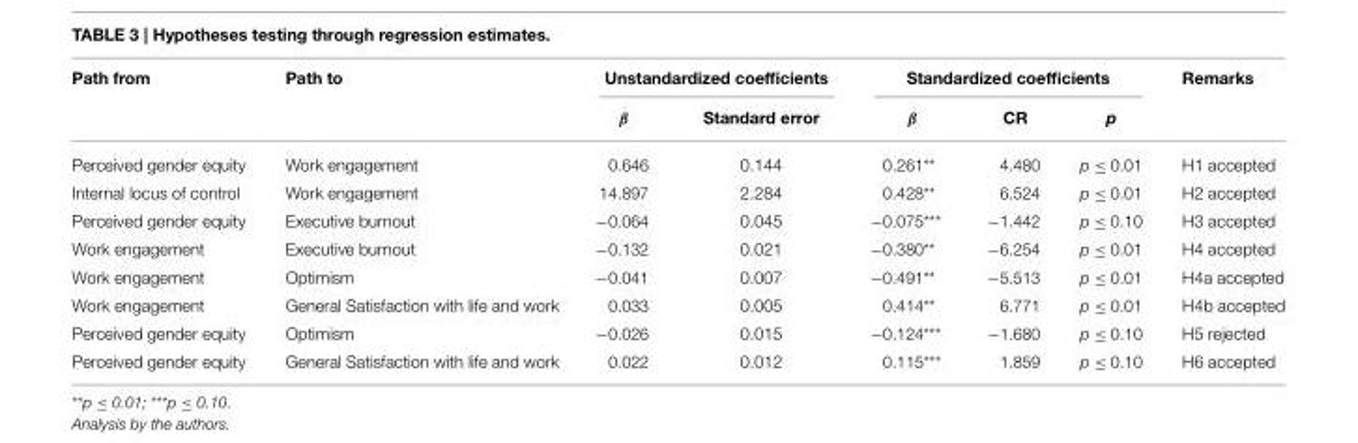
<table><thead><tr><td rowspan="2">Path from</td><td rowspan="2">Path to</td><td colspan="2">Unstandardized coefficients</td><td colspan="3">Standardized coefficients</td><td rowspan="2">Remarks</td></tr><tr><td>β</td><td>Standard error</td><td>β</td><td>CR</td><td>p</td></tr></thead><tbody><tr><td>Perceived gender equity</td><td>Work engagement</td><td>0.646</td><td>0.144</td><td>0.261**</td><td>4.480</td><td>p ≤ 0.01</td><td>H1 accepted</td></tr><tr><td>Internal locus of control</td><td>Work engagement</td><td>14.897</td><td>2.284</td><td>0.428**</td><td>6.524</td><td>p ≤ 0.01</td><td>H2 accepted</td></tr><tr><td>Perceived gender equity</td><td>Executive burnout</td><td>−0.064</td><td>0.045</td><td>−0.075***</td><td>−1.442</td><td>p ≤ 0.10</td><td>H3 accepted</td></tr><tr><td>Work engagement</td><td>Executive burnout</td><td>−0.132</td><td>0.021</td><td>−0.380**</td><td>−6.254</td><td>p ≤ 0.01</td><td>H4 accepted</td></tr><tr><td>Work engagement</td><td>Optimism</td><td>−0.041</td><td>0.007</td><td>−0.491**</td><td>−5.513</td><td>p ≤ 0.01</td><td>H4a accepted</td></tr><tr><td>Work engagement</td><td>General Satisfaction with life and work</td><td>0.033</td><td>0.005</td><td>0.414**</td><td>6.771</td><td>p ≤ 0.01</td><td>H4b accepted</td></tr><tr><td>Perceived gender equity</td><td>Optimism</td><td>−0.026</td><td>0.015</td><td>−0.124***</td><td>−1.680</td><td>p ≤ 0.10</td><td>H5 rejected</td></tr><tr><td>Perceived gender equity</td><td>General Satisfaction with life and work</td><td>0.022</td><td>0.012</td><td>0.115***</td><td>1.859</td><td>p ≤ 0.10</td><td>H6 accepted</td></tr></tbody></table>